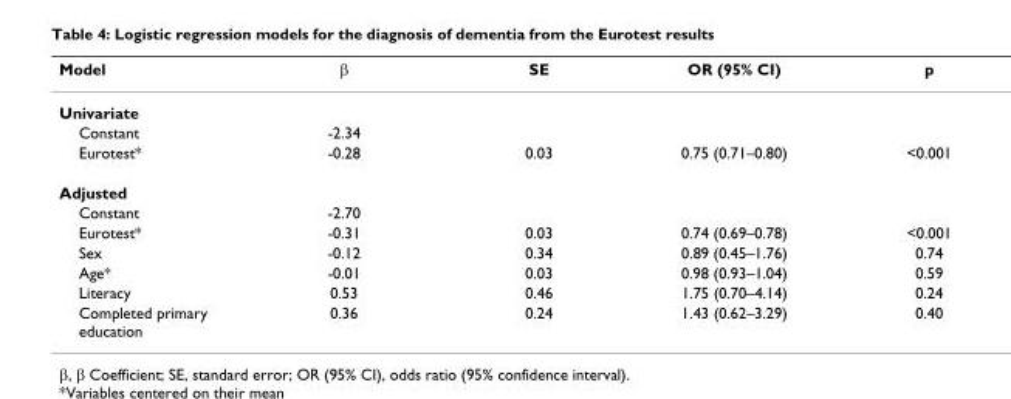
<table><thead><tr><td>Model</td><td>β</td><td>SE</td><td>OR (95% CI)</td><td>p</td></tr></thead><tbody><tr><td colspan="5">Univariate</td></tr><tr><td>Constant</td><td>-2.34</td><td></td><td></td><td></td></tr><tr><td>Eurotest*</td><td>-0.28</td><td>0.03</td><td>0.75 (0.71–0.80)</td><td>&lt;0.001</td></tr><tr><td colspan="5">Adjusted</td></tr><tr><td>Constant</td><td>-2.70</td><td></td><td></td><td></td></tr><tr><td>Eurotest*</td><td>-0.31</td><td>0.03</td><td>0.74 (0.69–0.78)</td><td>&lt;0.001</td></tr><tr><td>Sex</td><td>-0.12</td><td>0.34</td><td>0.89 (0.45–1.76)</td><td>0.74</td></tr><tr><td>Age*</td><td>-0.01</td><td>0.03</td><td>0.98 (0.93–1.04)</td><td>0.59</td></tr><tr><td>Literacy</td><td>0.53</td><td>0.46</td><td>1.75 (0.70–4.14)</td><td>0.24</td></tr><tr><td>Completed primary education</td><td>0.36</td><td>0.24</td><td>1.43 (0.62–3.29)</td><td>0.40</td></tr></tbody></table>